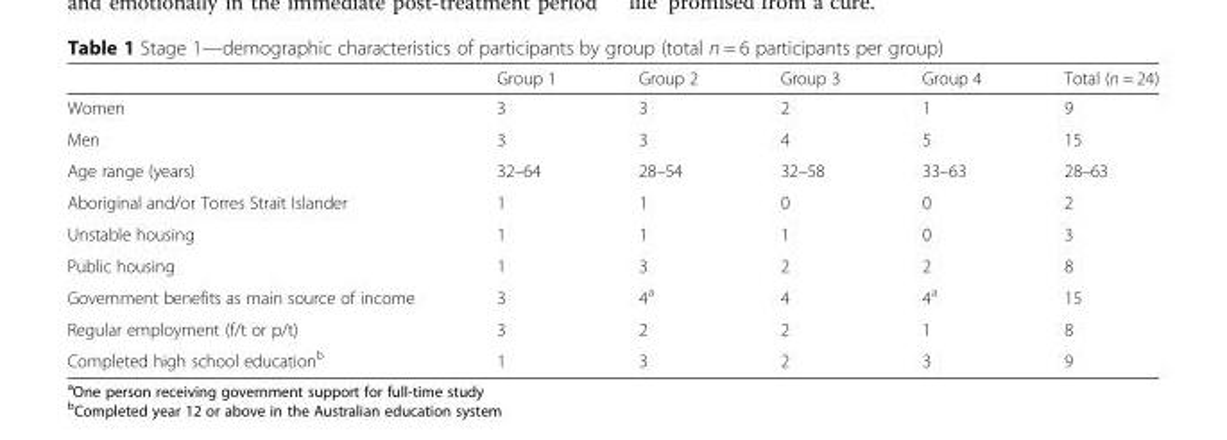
<table><thead><tr><td></td><td>Group 1</td><td>Group 2</td><td>Group 3</td><td>Group 4</td><td>Total (n = 24)</td></tr></thead><tbody><tr><td>Women</td><td>3</td><td>3</td><td>2</td><td>1</td><td>9</td></tr><tr><td>Men</td><td>3</td><td>3</td><td>4</td><td>5</td><td>15</td></tr><tr><td>Age range (years)</td><td>32–64</td><td>28–54</td><td>32–58</td><td>33–63</td><td>28–63</td></tr><tr><td>Aboriginal and/or Torres Strait Islander</td><td>1</td><td>1</td><td>0</td><td>0</td><td>2</td></tr><tr><td>Unstable housing</td><td>1</td><td>1</td><td>1</td><td>0</td><td>3</td></tr><tr><td>Public housing</td><td>1</td><td>3</td><td>2</td><td>2</td><td>8</td></tr><tr><td>Government benefits as main source of income</td><td>3</td><td>4<sup>a</sup></td><td>4</td><td>4<sup>a</sup></td><td>15</td></tr><tr><td>Regular employment (f/t or p/t)</td><td>3</td><td>2</td><td>2</td><td>1</td><td>8</td></tr><tr><td>Completed high school education<sup>b</sup></td><td>1</td><td>3</td><td>2</td><td>3</td><td>9</td></tr></tbody></table>